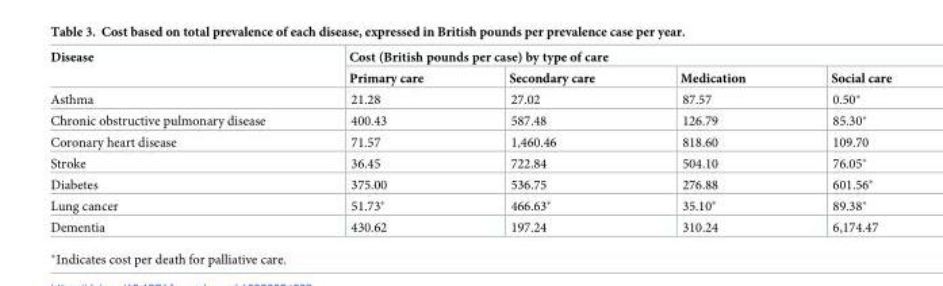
<table><thead><tr><td rowspan="2">Disease</td><td colspan="4">Cost (British pounds per case) by type of care</td></tr><tr><td>Primary care</td><td>Secondary care</td><td>Medication</td><td>Social care</td></tr></thead><tbody><tr><td>Asthma</td><td>21.28</td><td>27.02</td><td>87.57</td><td>0.50*</td></tr><tr><td>Chronic obstructive pulmonary disease</td><td>400.43</td><td>587.48</td><td>126.79</td><td>85.30*</td></tr><tr><td>Coronary heart disease</td><td>71.57</td><td>1,460.46</td><td>818.60</td><td>109.70</td></tr><tr><td>Stroke</td><td>36.45</td><td>722.84</td><td>504.10</td><td>76.05*</td></tr><tr><td>Diabetes</td><td>375.00</td><td>536.75</td><td>276.88</td><td>601.56*</td></tr><tr><td>Lung cancer</td><td>51.73*</td><td>466.63*</td><td>35.10*</td><td>89.38*</td></tr><tr><td>Dementia</td><td>430.62</td><td>197.24</td><td>310.24</td><td>6,174.47</td></tr></tbody></table>